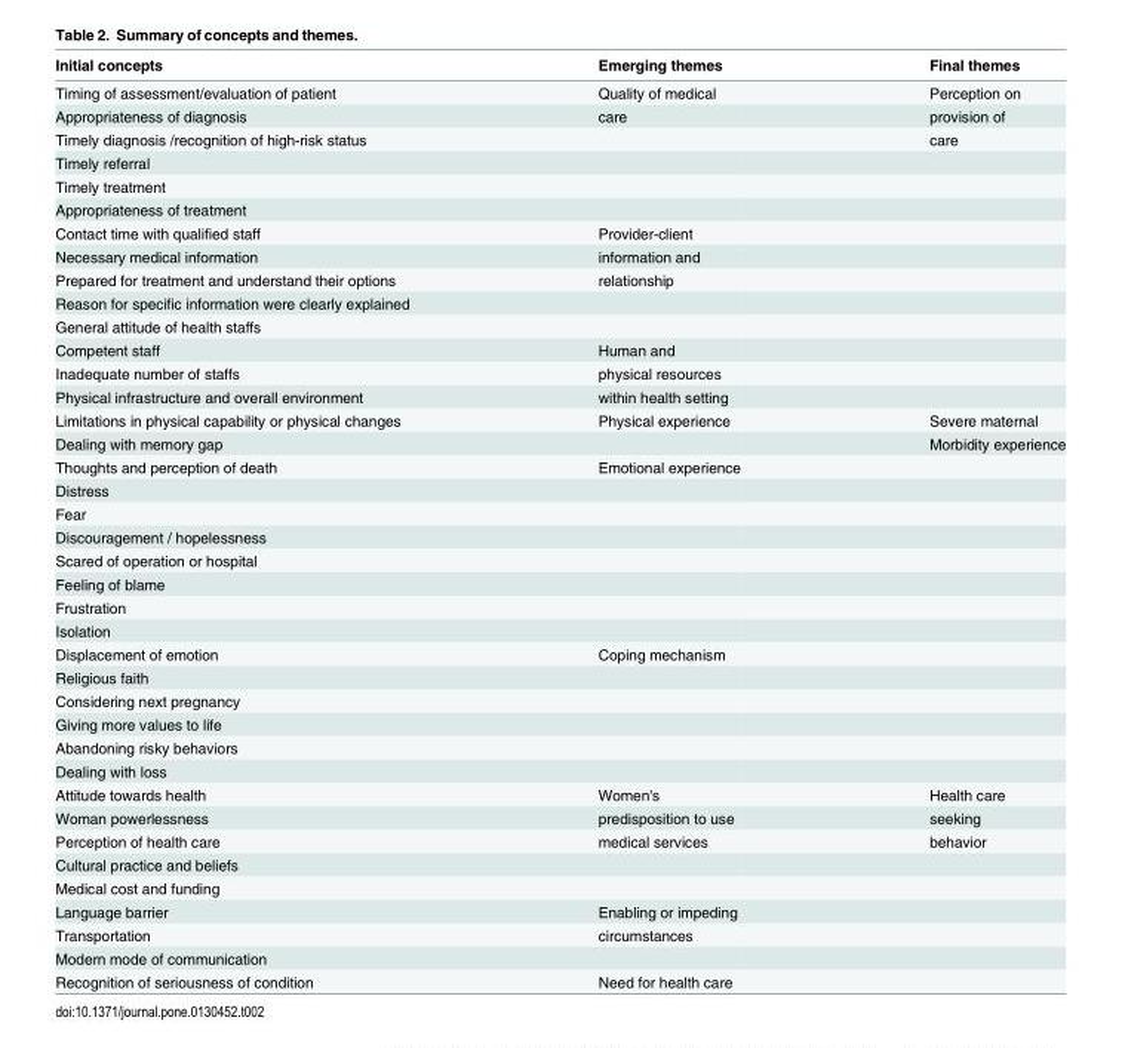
<table><thead><tr><td>Initial concepts</td><td>Emerging themes</td><td>Final themes</td></tr></thead><tbody><tr><td>Timing of assessment/evaluation of patient</td><td>Quality of medical</td><td>Perception on</td></tr><tr><td>Appropriateness of diagnosis</td><td>care</td><td>provision of</td></tr><tr><td>Timely diagnosis /recognition of high-risk status</td><td></td><td>care</td></tr><tr><td colspan="3">Timely referral</td></tr><tr><td colspan="3">Timely treatment</td></tr><tr><td colspan="3">Appropriateness of treatment</td></tr><tr><td>Contact time with qualified staff</td><td>Provider-client</td><td></td></tr><tr><td>Necessary medical information</td><td>information and</td><td></td></tr><tr><td>Prepared for treatment and understand their options</td><td>relationship</td><td></td></tr><tr><td colspan="3">Reason for specific information were clearly explained</td></tr><tr><td colspan="3">General attitude of health staffs</td></tr><tr><td>Competent staff</td><td>Human and</td><td></td></tr><tr><td>Inadequate number of staffs</td><td>physical resources</td><td></td></tr><tr><td>Physical infrastructure and overall environment</td><td>within health setting</td><td></td></tr><tr><td>Limitations in physical capability or physical changes</td><td>Physical experience</td><td>Severe maternal</td></tr><tr><td>Dealing with memory gap</td><td></td><td>Morbidity experience</td></tr><tr><td>Thoughts and perception of death</td><td>Emotional experience</td><td></td></tr><tr><td colspan="3">Distress</td></tr><tr><td colspan="3">Fear</td></tr><tr><td colspan="3">Discouragement / hopelessness</td></tr><tr><td colspan="3">Scared of operation or hospital</td></tr><tr><td colspan="3">Feeling of blame</td></tr><tr><td colspan="3">Frustration</td></tr><tr><td colspan="3">Isolation</td></tr><tr><td>Displacement of emotion</td><td>Coping mechanism</td><td></td></tr><tr><td colspan="3">Religious faith</td></tr><tr><td colspan="3">Considering next pregnancy</td></tr><tr><td colspan="3">Giving more values to life</td></tr><tr><td colspan="3">Abandoning risky behaviors</td></tr><tr><td colspan="3">Dealing with loss</td></tr><tr><td>Attitude towards health</td><td>Women&#x27;s</td><td>Health care</td></tr><tr><td>Woman powerlessness</td><td>predisposition to use</td><td>seeking</td></tr><tr><td>Perception of health care</td><td>medical services</td><td>behavior</td></tr><tr><td colspan="3">Cultural practice and beliefs</td></tr><tr><td colspan="3">Medical cost and funding</td></tr><tr><td>Language barrier</td><td>Enabling or impeding</td><td></td></tr><tr><td>Transportation</td><td>circumstances</td><td></td></tr><tr><td colspan="3">Modern mode of communication</td></tr><tr><td>Recognition of seriousness of condition</td><td>Need for health care</td><td></td></tr></tbody></table>